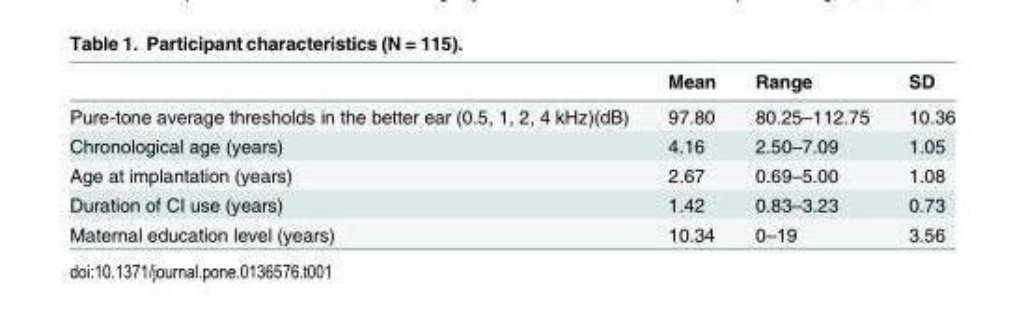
<table><thead><tr><td></td><td>Mean</td><td>Range</td><td>SD</td></tr></thead><tbody><tr><td>Pure-tone average thresholds in the better ear (0.5, 1, 2, 4 kHz)(dB)</td><td>97.80</td><td>80.25–112.75</td><td>10.36</td></tr><tr><td>Chronological age (years)</td><td>4.16</td><td>2.50–7.09</td><td>1.05</td></tr><tr><td>Age at implantation (years)</td><td>2.67</td><td>0.69–5.00</td><td>1.08</td></tr><tr><td>Duration of CI use (years)</td><td>1.42</td><td>0.83–3.23</td><td>0.73</td></tr><tr><td>Maternal education level (years)</td><td>10.34</td><td>0–19</td><td>3.56</td></tr></tbody></table>